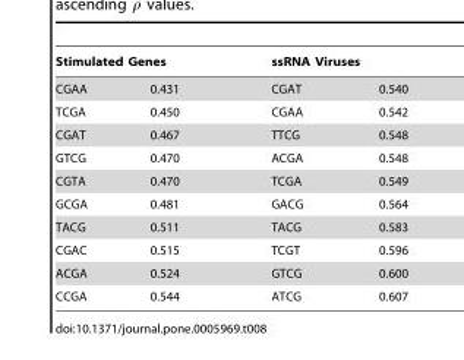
<table><thead><tr><td colspan="2">Stimulated Genes</td><td colspan="2">ssRNA Viruses</td></tr><tr><td>CGAA</td><td>0.431</td><td>CGAT</td><td>0.540</td></tr></thead><tbody><tr><td>TCGA</td><td>0.450</td><td>CGAA</td><td>0.542</td></tr><tr><td>CGAT</td><td>0.467</td><td>TTCG</td><td>0.548</td></tr><tr><td>GTCG</td><td>0.470</td><td>ACGA</td><td>0.548</td></tr><tr><td>CGTA</td><td>0.470</td><td>TCGA</td><td>0.549</td></tr><tr><td>GCGA</td><td>0.481</td><td>GACG</td><td>0.564</td></tr><tr><td>TACG</td><td>0.511</td><td>TACG</td><td>0.583</td></tr><tr><td>CGAC</td><td>0.515</td><td>TCGT</td><td>0.596</td></tr><tr><td>ACGA</td><td>0.524</td><td>GTCG</td><td>0.600</td></tr><tr><td>CCGA</td><td>0.544</td><td>ATCG</td><td>0.607</td></tr></tbody></table>